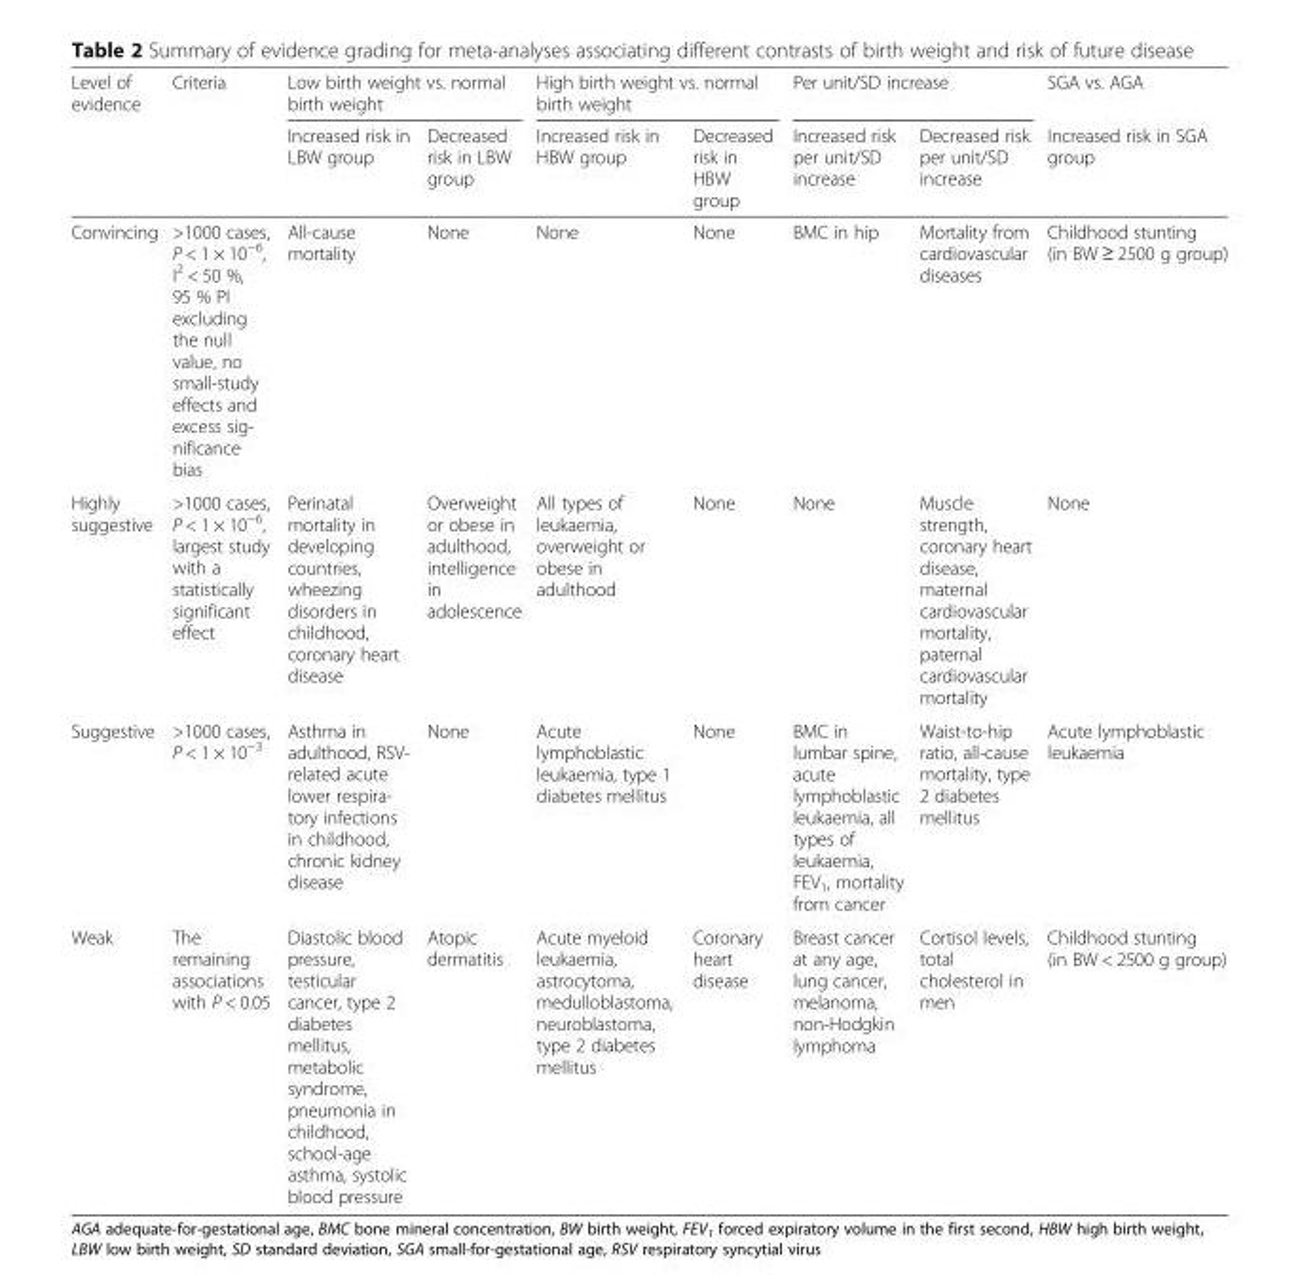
<table><thead><tr><td rowspan="2">Level of evidence</td><td rowspan="2">Criteria</td><td colspan="2">Low birth weight vs. normal birth weight</td><td colspan="2">High birth weight vs. normal birth weight</td><td colspan="2">Per unit/SD increase</td><td rowspan="2">SGA vs. AGA Increased risk in SGA group</td></tr><tr><td>Increased risk in LBW group</td><td>Decreased risk in LBW group</td><td>Increased risk in HBW group</td><td>Decreased risk in HBW group</td><td>Increased risk per unit/SD increase</td><td>Decreased risk per unit/SD increase</td></tr></thead><tbody><tr><td>Convincing</td><td>&gt;1000 cases, P &lt; 1 × 10−6, I2 &lt; 50 %, 95 % PI excluding the null value, no small-study effects and excess sig- nificance bias</td><td>All-cause mortality</td><td>None</td><td>None</td><td>None</td><td>BMC in hip</td><td>Mortality from cardiovascular diseases</td><td>Childhood stunting (in BW ≥ 2500 g group)</td></tr><tr><td>Highly suggestive</td><td>&gt;1000 cases, P &lt; 1 × 10<sup>−6</sup>, largest study with a statistically significant effect</td><td>Perinatal mortality in developing countries, wheezing disorders in childhood, coronary heart disease</td><td>Overweight or obese in adulthood, intelligence in adolescence</td><td>All types of leukaemia, overweight or obese in adulthood</td><td>None</td><td>None</td><td>Muscle strength, coronary heart disease, maternal cardiovascular mortality, paternal cardiovascular mortality</td><td>None</td></tr><tr><td>Suggestive</td><td>&gt;1000 cases, P &lt; 1 × 10<sup>−3</sup></td><td>Asthma in adulthood, RSV- related acute lower respira- tory infections in childhood, chronic kidney disease</td><td>None</td><td>Acute lymphoblastic leukaemia, type 1 diabetes mellitus</td><td>None</td><td>BMC in lumbar spine, acute lymphoblastic leukaemia, all types of leukaemia, FEV<sub>1</sub>, mortality from cancer</td><td>Waist-to-hip ratio, all-cause mortality, type 2 diabetes mellitus</td><td>Acute lymphoblastic leukaemia</td></tr><tr><td>Weak</td><td>The remaining associations with P &lt; 0.05</td><td>Diastolic blood pressure, testicular cancer, type 2 diabetes mellitus, metabolic syndrome, pneumonia in childhood, school-age asthma, systolic blood pressure</td><td>Atopic dermatitis</td><td>Acute myeloid leukaemia, astrocytoma, medulloblastoma, neuroblastoma, type 2 diabetes mellitus</td><td>Coronary heart disease</td><td>Breast cancer at any age, lung cancer, melanoma, non-Hodgkin lymphoma</td><td>Cortisol levels, total cholesterol in men</td><td>Childhood stunting (in BW &lt; 2500 g group)</td></tr></tbody></table>